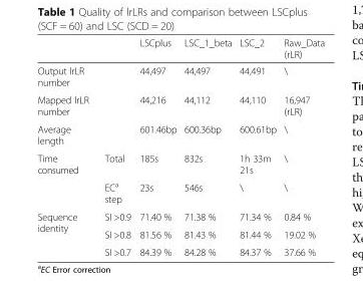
<table><thead><tr><td></td><td></td><td>LSCplus</td><td>LSC_1_beta</td><td>LSC_2</td><td>Raw_Data (rLR)</td></tr></thead><tbody><tr><td colspan="2">Output lrLR number</td><td>44,497</td><td>44,497</td><td>44,491</td><td>\</td></tr><tr><td colspan="2">Mapped lrLR number</td><td>44,216</td><td>44,112</td><td>44,110</td><td>16,947 (rLR)</td></tr><tr><td colspan="2">Average length</td><td>601.46bp</td><td>600.36bp</td><td>600.61bp</td><td>\</td></tr><tr><td rowspan="2">Time consumed</td><td>Total</td><td>185s</td><td>832s</td><td>1h 33m 21s</td><td>\</td></tr><tr><td>EC<sup>a</sup> step</td><td>23s</td><td>546s</td><td>\</td><td>\</td></tr><tr><td rowspan="3">Sequence identity</td><td>SI &gt;0.9</td><td>71.40 %</td><td>71.38 %</td><td>71.34 %</td><td>0.84 %</td></tr><tr><td>SI &gt;0.8</td><td>81.56 %</td><td>81.43 %</td><td>81.44 %</td><td>19.02 %</td></tr><tr><td>SI &gt;0.7</td><td>84.39 %</td><td>84.28 %</td><td>84.37 %</td><td>37.66 %</td></tr></tbody></table>